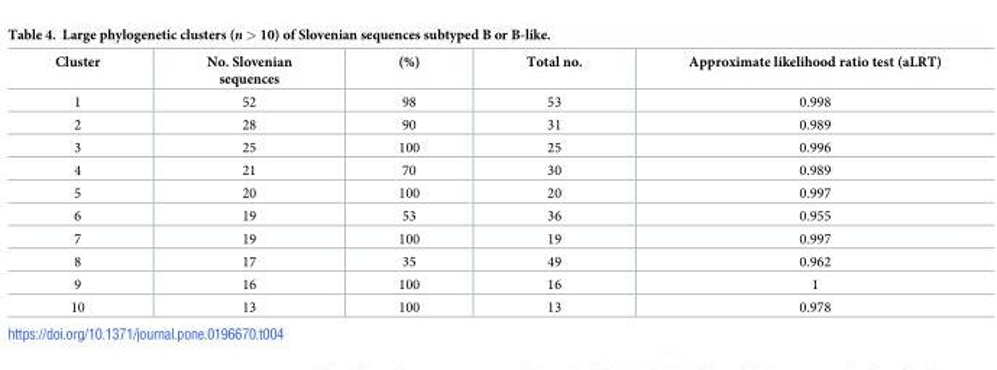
<table><thead><tr><td>Cluster</td><td>No. Slovenian sequences</td><td>(%)</td><td>Total no.</td><td>Approximate likelihood ratio test (aLRT)</td></tr></thead><tbody><tr><td>1</td><td>52</td><td>98</td><td>53</td><td>0.998</td></tr><tr><td>2</td><td>28</td><td>90</td><td>31</td><td>0.989</td></tr><tr><td>3</td><td>25</td><td>100</td><td>25</td><td>0.996</td></tr><tr><td>4</td><td>21</td><td>70</td><td>30</td><td>0.989</td></tr><tr><td>5</td><td>20</td><td>100</td><td>20</td><td>0.997</td></tr><tr><td>6</td><td>19</td><td>53</td><td>36</td><td>0.955</td></tr><tr><td>7</td><td>19</td><td>100</td><td>19</td><td>0.997</td></tr><tr><td>8</td><td>17</td><td>35</td><td>49</td><td>0.962</td></tr><tr><td>9</td><td>16</td><td>100</td><td>16</td><td>1</td></tr><tr><td>10</td><td>13</td><td>100</td><td>13</td><td>0.978</td></tr></tbody></table>